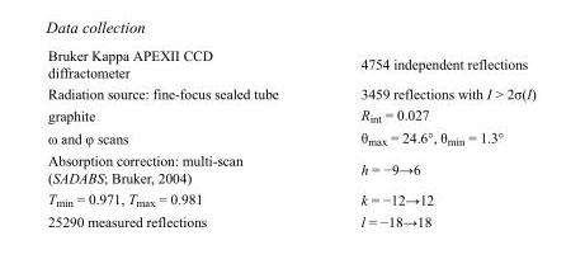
<table><tbody><tr><td>Bruker Kappa APEXII CCD diffractometer</td><td>4754 independent reflections</td></tr><tr><td>Radiation source: fine-focus sealed tube</td><td>3459 reflections with I &gt; 2σ(I)</td></tr><tr><td>graphite</td><td>R<sub>int</sub> = 0.027</td></tr><tr><td>ω and φ scans</td><td>θ<sub>max</sub> = 24.6°, θ<sub>min</sub> = 1.3°</td></tr><tr><td>Absorption correction: multi-scan (SADABS; Bruker, 2004)</td><td>h = −9→6</td></tr><tr><td>T<sub>min</sub> = 0.971, T<sub>max</sub> = 0.981</td><td>k = −12→12</td></tr><tr><td>25290 measured reflections</td><td>l = −18→18</td></tr></tbody></table>